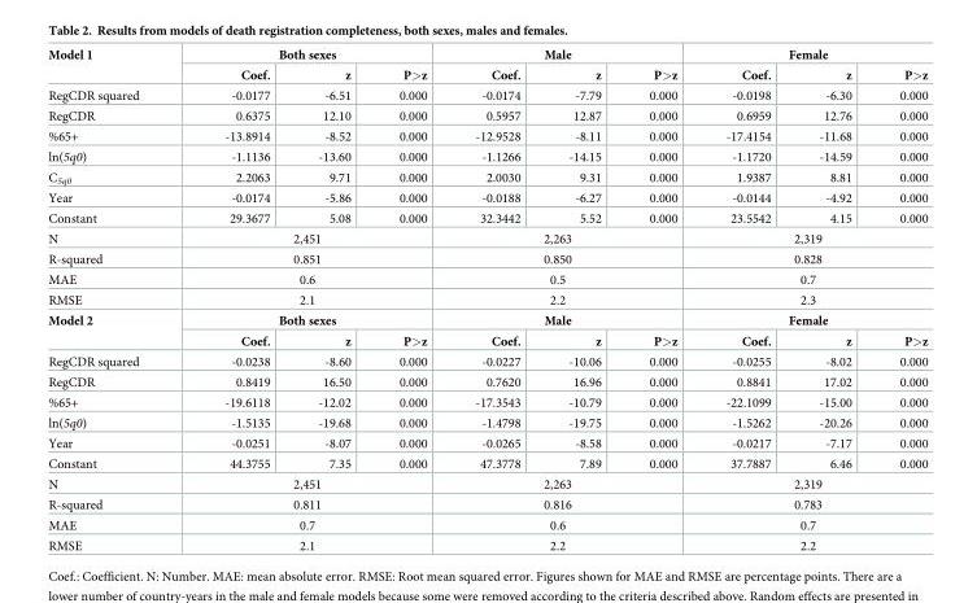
<table><tbody><tr><td rowspan="2">Model 1</td><td colspan="3">Both sexes</td><td colspan="3">Male</td><td colspan="3">Female</td></tr><tr><td>Coef.</td><td>z</td><td>P&gt;z</td><td>Coef.</td><td>z</td><td>P&gt;z</td><td>Coef.</td><td>z</td><td>P&gt;z</td></tr><tr><td>RegCDR squared</td><td>-0.0177</td><td>-6.51</td><td>0.000</td><td>-0.0174</td><td>-7.79</td><td>0.000</td><td>-0.0198</td><td>-6.30</td><td>0.000</td></tr><tr><td>RegCDR</td><td>0.6375</td><td>12.10</td><td>0.000</td><td>0.5957</td><td>12.87</td><td>0.000</td><td>0.6959</td><td>12.76</td><td>0.000</td></tr><tr><td>%65+</td><td>-13.8914</td><td>-8.52</td><td>0.000</td><td>-12.9528</td><td>-8.11</td><td>0.000</td><td>-17.4154</td><td>-11.68</td><td>0.000</td></tr><tr><td>ln(5q0)</td><td>-1.1136</td><td>-13.60</td><td>0.000</td><td>-1.1266</td><td>-14.15</td><td>0.000</td><td>-1.1720</td><td>-14.59</td><td>0.000</td></tr><tr><td>C<sub>5q0</sub></td><td>2.2063</td><td>9.71</td><td>0.000</td><td>2.0030</td><td>9.31</td><td>0.000</td><td>1.9387</td><td>8.81</td><td>0.000</td></tr><tr><td>Year</td><td>-0.0174</td><td>-5.86</td><td>0.000</td><td>-0.0188</td><td>-6.27</td><td>0.000</td><td>-0.0144</td><td>-4.92</td><td>0.000</td></tr><tr><td>Constant</td><td>29.3677</td><td>5.08</td><td>0.000</td><td>32.3442</td><td>5.52</td><td>0.000</td><td>23.5542</td><td>4.15</td><td>0.000</td></tr><tr><td>N</td><td colspan="3">2,451</td><td colspan="3">2,263</td><td colspan="3">2,319</td></tr><tr><td>R-squared</td><td colspan="3">0.851</td><td colspan="3">0.850</td><td colspan="3">0.828</td></tr><tr><td>MAE</td><td colspan="3">0.6</td><td colspan="3">0.5</td><td colspan="3">0.7</td></tr><tr><td>RMSE</td><td colspan="3">2.1</td><td colspan="3">2.2</td><td colspan="3">2.3</td></tr><tr><td rowspan="2">Model 2</td><td colspan="3">Both sexes</td><td colspan="3">Male</td><td colspan="3">Female</td></tr><tr><td>Coef.</td><td>z</td><td>P&gt;z</td><td>Coef.</td><td>z</td><td>P&gt;z</td><td>Coef.</td><td>z</td><td>P&gt;z</td></tr><tr><td>RegCDR squared</td><td>-0.0238</td><td>-8.60</td><td>0.000</td><td>-0.0227</td><td>-10.06</td><td>0.000</td><td>-0.0255</td><td>-8.02</td><td>0.000</td></tr><tr><td>RegCDR</td><td>0.8419</td><td>16.50</td><td>0.000</td><td>0.7620</td><td>16.96</td><td>0.000</td><td>0.8841</td><td>17.02</td><td>0.000</td></tr><tr><td>%65+</td><td>-19.6118</td><td>-12.02</td><td>0.000</td><td>-17.3543</td><td>-10.79</td><td>0.000</td><td>-22.1099</td><td>-15.00</td><td>0.000</td></tr><tr><td>ln(5q0)</td><td>-1.5135</td><td>-19.68</td><td>0.000</td><td>-1.4798</td><td>-19.75</td><td>0.000</td><td>-1.5262</td><td>-20.26</td><td>0.000</td></tr><tr><td>Year</td><td>-0.0251</td><td>-8.07</td><td>0.000</td><td>-0.0265</td><td>-8.58</td><td>0.000</td><td>-0.0217</td><td>-7.17</td><td>0.000</td></tr><tr><td>Constant</td><td>44.3755</td><td>7.35</td><td>0.000</td><td>47.3778</td><td>7.89</td><td>0.000</td><td>37.7887</td><td>6.46</td><td>0.000</td></tr><tr><td>N</td><td colspan="3">2,451</td><td colspan="3">2,263</td><td colspan="3">2,319</td></tr><tr><td>R-squared</td><td colspan="3">0.811</td><td colspan="3">0.816</td><td colspan="3">0.783</td></tr><tr><td>MAE</td><td colspan="3">0.7</td><td colspan="3">0.6</td><td colspan="3">0.7</td></tr><tr><td>RMSE</td><td colspan="3">2.1</td><td colspan="3">2.2</td><td colspan="3">2.2</td></tr></tbody></table>